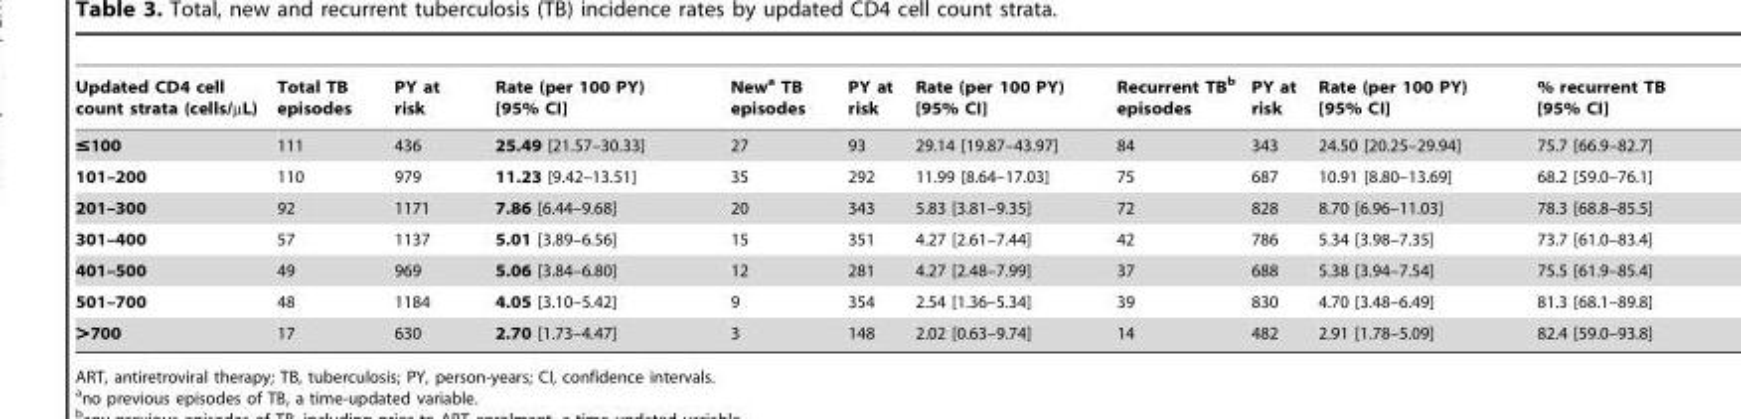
<table><thead><tr><td>Updated CD4 cell count strata (cells/µL)</td><td>Total TB episodes</td><td>PY at risk</td><td>Rate (per 100 PY) [95% CI]</td><td>New<sup>a</sup> TB episodes</td><td>PY at risk</td><td>Rate (per 100 PY) [95% CI]</td><td>Recurrent TB<sup>b</sup> episodes</td><td>PY at risk</td><td>Rate (per 100 PY) [95% CI]</td><td>% recurrent TB [95% CI]</td></tr></thead><tbody><tr><td>≤100</td><td>111</td><td>436</td><td>25.49 [21.57–30.33]</td><td>27</td><td>93</td><td>29.14 [19.87–43.97]</td><td>84</td><td>343</td><td>24.50 [20.25–29.94]</td><td>75.7 [66.9–82.7]</td></tr><tr><td>101–200</td><td>110</td><td>979</td><td>11.23 [9.42–13.51]</td><td>35</td><td>292</td><td>11.99 [8.64–17.03]</td><td>75</td><td>687</td><td>10.91 [8.80–13.69]</td><td>68.2 [59.0–76.1]</td></tr><tr><td>201–300</td><td>92</td><td>1171</td><td>7.86 [6.44–9.68]</td><td>20</td><td>343</td><td>5.83 [3.81–9.35]</td><td>72</td><td>828</td><td>8.70 [6.96–11.03]</td><td>78.3 [68.8–85.5]</td></tr><tr><td>301–400</td><td>57</td><td>1137</td><td>5.01 [3.89–6.56]</td><td>15</td><td>351</td><td>4.27 [2.61–7.44]</td><td>42</td><td>786</td><td>5.34 [3.98–7.35]</td><td>73.7 [61.0–83.4]</td></tr><tr><td>401–500</td><td>49</td><td>969</td><td>5.06 [3.84–6.80]</td><td>12</td><td>281</td><td>4.27 [2.48–7.99]</td><td>37</td><td>688</td><td>5.38 [3.94–7.54]</td><td>75.5 [61.9–85.4]</td></tr><tr><td>501–700</td><td>48</td><td>1184</td><td>4.05 [3.10–5.42]</td><td>9</td><td>354</td><td>2.54 [1.36–5.34]</td><td>39</td><td>830</td><td>4.70 [3.48–6.49]</td><td>81.3 [68.1–89.8]</td></tr><tr><td>&gt;700</td><td>17</td><td>630</td><td>2.70 [1.73–4.47]</td><td>3</td><td>148</td><td>2.02 [0.63–9.74]</td><td>14</td><td>482</td><td>2.91 [1.78–5.09]</td><td>82.4 [59.0–93.8]</td></tr></tbody></table>